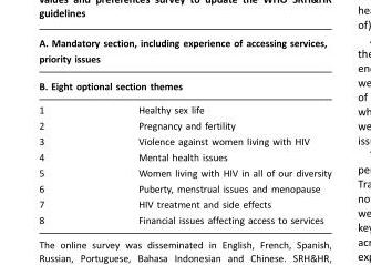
<table><thead><tr><td rowspan="2" colspan="2">A. Mandatory section, including experience of accessing services, priority issues B. Eight optional section themes</td></tr><tr></tr><tr><td>1</td><td>Healthy sex life</td></tr></thead><tbody><tr><td>2</td><td>Pregnancy and fertility</td></tr><tr><td>3</td><td>Violence against women living with HIV</td></tr><tr><td>4</td><td>Mental health issues</td></tr><tr><td>5</td><td>Women living with HIV in all of our diversity</td></tr><tr><td>6</td><td>Puberty, menstrual issues and menopause</td></tr><tr><td>7</td><td>HIV treatment and side effects</td></tr><tr><td>8</td><td>Financial issues affecting access to services</td></tr></tbody></table>